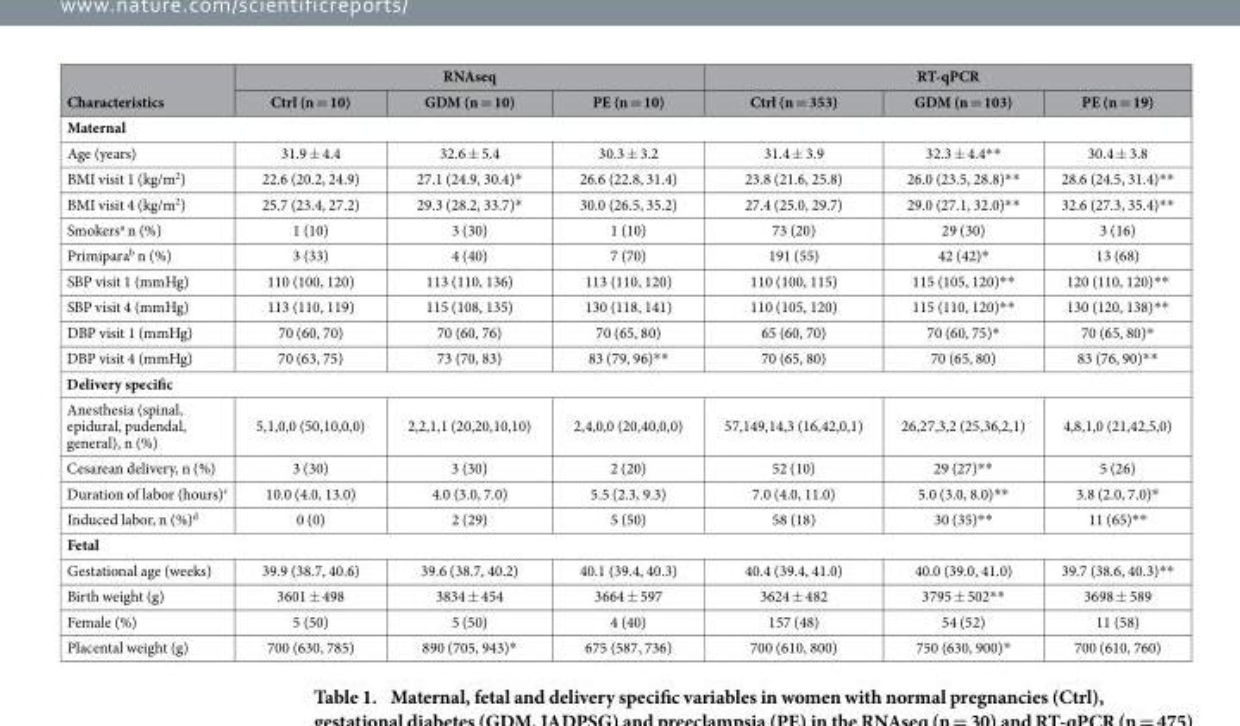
<table><thead><tr><td rowspan="2">Characteristics</td><td colspan="3">RNAseq</td><td colspan="3">RT-qPCR</td></tr><tr><td>Ctrl (n = 10)</td><td>GDM (n = 10)</td><td>PE (n = 10)</td><td>Ctrl (n = 353)</td><td>GDM (n = 103)</td><td>PE (n = 19)</td></tr></thead><tbody><tr><td colspan="7">Maternal</td></tr><tr><td>Age (years)</td><td>31.9 ± 4.4</td><td>32.6 ± 5.4</td><td>30.3 ± 3.2</td><td>31.4 ± 3.9</td><td>32.3 ± 4.4**</td><td>30.4 ± 3.8</td></tr><tr><td>BMI visit 1 (kg/m<sup>2</sup>)</td><td>22.6 (20.2, 24.9)</td><td>27.1 (24.9, 30.4)*</td><td>26.6 (22.8, 31.4)</td><td>23.8 (21.6, 25.8)</td><td>26.0 (23.5, 28.8)**</td><td>28.6 (24.5, 31.4)**</td></tr><tr><td>BMI visit 4 (kg/m<sup>2</sup>)</td><td>25.7 (23.4, 27.2)</td><td>29.3 (28.2, 33.7)*</td><td>30.0 (26.5, 35.2)</td><td>27.4 (25.0, 29.7)</td><td>29.0 (27.1, 32.0)**</td><td>32.6 (27.3, 35.4)**</td></tr><tr><td>Smokers<sup>a</sup> n (%)</td><td>1 (10)</td><td>3 (30)</td><td>1 (10)</td><td>73 (20)</td><td>29 (30)</td><td>3 (16)</td></tr><tr><td>Primipara<sup>b</sup> n (%)</td><td>3 (33)</td><td>4 (40)</td><td>7 (70)</td><td>191 (55)</td><td>42 (42)*</td><td>13 (68)</td></tr><tr><td>SBP visit 1 (mmHg)</td><td>110 (100, 120)</td><td>113 (110, 136)</td><td>113 (110, 120)</td><td>110 (100, 115)</td><td>115 (105, 120)**</td><td>120 (110, 120)**</td></tr><tr><td>SBP visit 4 (mmHg)</td><td>113 (110, 119)</td><td>115 (108, 135)</td><td>130 (118, 141)</td><td>110 (105, 120)</td><td>115 (110, 120)**</td><td>130 (120, 138)**</td></tr><tr><td>DBP visit 1 (mmHg)</td><td>70 (60, 70)</td><td>70 (60, 76)</td><td>70 (65, 80)</td><td>65 (60, 70)</td><td>70 (60, 75)*</td><td>70 (65, 80)*</td></tr><tr><td>DBP visit 4 (mmHg)</td><td>70 (63, 75)</td><td>73 (70, 83)</td><td>83 (79, 96)**</td><td>70 (65, 80)</td><td>70 (65, 80)</td><td>83 (76, 90)**</td></tr><tr><td colspan="7">Delivery specific</td></tr><tr><td>Anesthesia (spinal, epidural, pudendal, general), n (%)</td><td>5,1,0,0 (50,10,0,0)</td><td>2,2,1,1 (20,20,10,10)</td><td>2,4,0,0 (20,40,0,0)</td><td>57,149,14,3 (16,42,0,1)</td><td>26,27,3,2 (25,36,2,1)</td><td>4,8,1,0 (21,42,5,0)</td></tr><tr><td>Cesarean delivery, n (%)</td><td>3 (30)</td><td>3 (30)</td><td>2 (20)</td><td>52 (10)</td><td>29 (27)**</td><td>5 (26)</td></tr><tr><td>Duration of labor (hours)<sup>c</sup></td><td>10.0 (4.0, 13.0)</td><td>4.0 (3.0, 7.0)</td><td>5.5 (2.3, 9.3)</td><td>7.0 (4.0, 11.0)</td><td>5.0 (3.0, 8.0)**</td><td>3.8 (2.0, 7.0)*</td></tr><tr><td>Induced labor, n (%)<sup>d</sup></td><td>0 (0)</td><td>2 (29)</td><td>5 (50)</td><td>58 (18)</td><td>30 (35)**</td><td>11 (65)**</td></tr><tr><td colspan="7">Fetal</td></tr><tr><td>Gestational age (weeks)</td><td>39.9 (38.7, 40.6)</td><td>39.6 (38.7, 40.2)</td><td>40.1 (39.4, 40.3)</td><td>40.4 (39.4, 41.0)</td><td>40.0 (39.0, 41.0)</td><td>39.7 (38.6, 40.3)**</td></tr><tr><td>Birth weight (g)</td><td>3601 ± 498</td><td>3834 ± 454</td><td>3664 ± 597</td><td>3624 ± 482</td><td>3795 ± 502**</td><td>3698 ± 589</td></tr><tr><td>Female (%)</td><td>5 (50)</td><td>5 (50)</td><td>4 (40)</td><td>157 (48)</td><td>54 (52)</td><td>11 (58)</td></tr><tr><td>Placental weight (g)</td><td>700 (630, 785)</td><td>890 (705, 943)*</td><td>675 (587, 736)</td><td>700 (610, 800)</td><td>750 (630, 900)*</td><td>700 (610, 760)</td></tr></tbody></table>